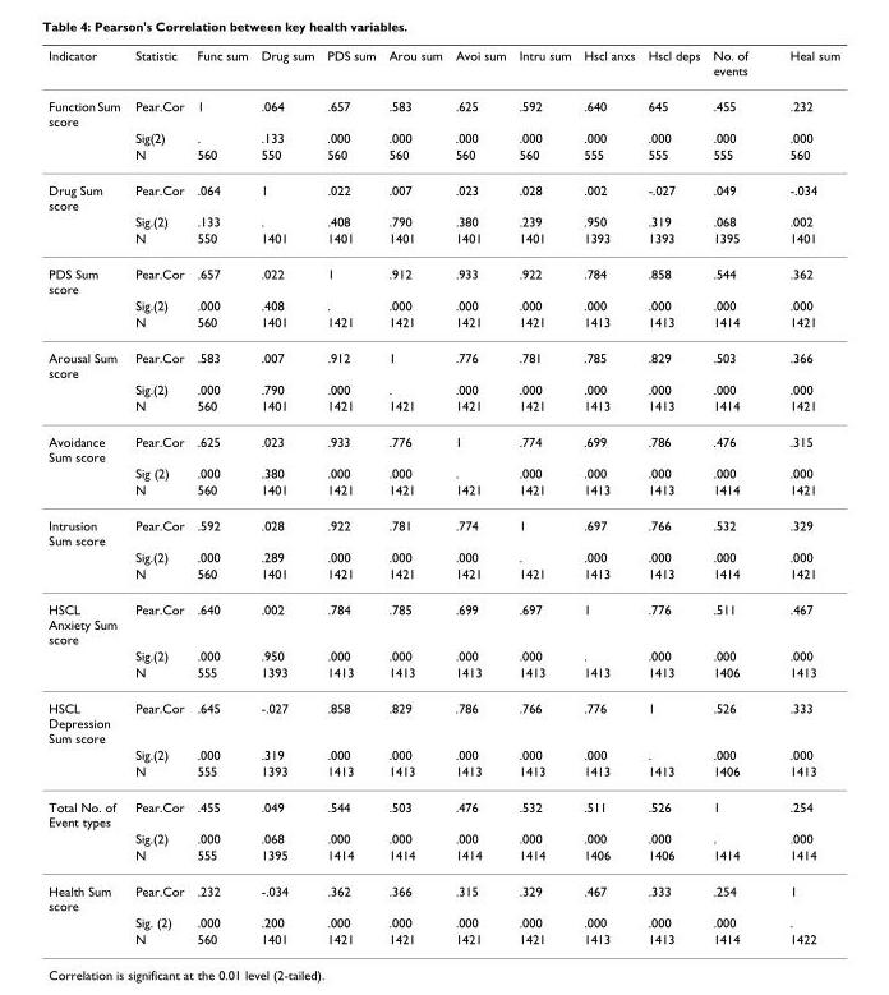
<table><thead><tr><td>Indicator</td><td>Statistic</td><td>Func sum</td><td>Drug sum</td><td>PDS sum</td><td>Arou sum</td><td>Avoi sum</td><td>Intru sum</td><td>Hscl anxs</td><td>Hscl deps</td><td>No. of events</td><td>Heal sum</td></tr></thead><tbody><tr><td rowspan="3">Function Sum score</td><td>Pear.Cor</td><td>1</td><td>.064</td><td>.657</td><td>.583</td><td>.625</td><td>.592</td><td>.640</td><td>645</td><td>.455</td><td>.232</td></tr><tr><td>Sig(2)</td><td>.</td><td>.133</td><td>.000</td><td>.000</td><td>.000</td><td>.000</td><td>.000</td><td>.000</td><td>.000</td><td>.000</td></tr><tr><td>N</td><td>560</td><td>550</td><td>560</td><td>560</td><td>560</td><td>560</td><td>555</td><td>555</td><td>555</td><td>560</td></tr><tr><td rowspan="3">Drug Sum score</td><td>Pear.Cor</td><td>.064</td><td>1</td><td>.022</td><td>.007</td><td>.023</td><td>.028</td><td>.002</td><td>-.027</td><td>.049</td><td>-.034</td></tr><tr><td>Sig.(2)</td><td>.133</td><td>.</td><td>.408</td><td>.790</td><td>.380</td><td>.239</td><td>.950</td><td>.319</td><td>.068</td><td>.002</td></tr><tr><td>N</td><td>550</td><td>1401</td><td>1401</td><td>1401</td><td>1401</td><td>1401</td><td>1393</td><td>1393</td><td>1395</td><td>1401</td></tr><tr><td rowspan="3">PDS Sum score</td><td>Pear.Cor</td><td>.657</td><td>.022</td><td>1</td><td>.912</td><td>.933</td><td>.922</td><td>.784</td><td>.858</td><td>.544</td><td>.362</td></tr><tr><td>Sig.(2)</td><td>.000</td><td>.408</td><td>.</td><td>.000</td><td>.000</td><td>.000</td><td>.000</td><td>.000</td><td>.000</td><td>.000</td></tr><tr><td>N</td><td>560</td><td>1401</td><td>1421</td><td>1421</td><td>1421</td><td>1421</td><td>1413</td><td>1413</td><td>1414</td><td>1421</td></tr><tr><td rowspan="3">Arousal Sum score</td><td>Pear.Cor</td><td>.583</td><td>.007</td><td>.912</td><td>1</td><td>.776</td><td>.781</td><td>.785</td><td>.829</td><td>.503</td><td>.366</td></tr><tr><td>Sig.(2)</td><td>.000</td><td>.790</td><td>.000</td><td>.</td><td>.000</td><td>.000</td><td>.000</td><td>.000</td><td>.000</td><td>.000</td></tr><tr><td>N</td><td>560</td><td>1401</td><td>1421</td><td>1421</td><td>1421</td><td>1421</td><td>1413</td><td>1413</td><td>1414</td><td>1421</td></tr><tr><td rowspan="3">Avoidance Sum score</td><td>Pear.Cor</td><td>.625</td><td>.023</td><td>.933</td><td>.776</td><td>1</td><td>.774</td><td>.699</td><td>.786</td><td>.476</td><td>.315</td></tr><tr><td>Sig (2)</td><td>.000</td><td>.380</td><td>.000</td><td>.000</td><td>.</td><td>.000</td><td>.000</td><td>.000</td><td>.000</td><td>.000</td></tr><tr><td>N</td><td>560</td><td>1401</td><td>1421</td><td>1421</td><td>1421</td><td>1421</td><td>1413</td><td>1413</td><td>1414</td><td>1421</td></tr><tr><td rowspan="3">Intrusion Sum score</td><td>Pear.Cor</td><td>.592</td><td>.028</td><td>.922</td><td>.781</td><td>.774</td><td>1</td><td>.697</td><td>.766</td><td>.532</td><td>.329</td></tr><tr><td>Sig.(2)</td><td>.000</td><td>.289</td><td>.000</td><td>.000</td><td>.000</td><td>.</td><td>.000</td><td>.000</td><td>.000</td><td>.000</td></tr><tr><td>N</td><td>560</td><td>1401</td><td>1421</td><td>1421</td><td>1421</td><td>1421</td><td>1413</td><td>1413</td><td>1414</td><td>1421</td></tr><tr><td rowspan="3">HSCL Anxiety Sum score</td><td>Pear.Cor</td><td>.640</td><td>.002</td><td>.784</td><td>.785</td><td>.699</td><td>.697</td><td>1</td><td>.776</td><td>.511</td><td>.467</td></tr><tr><td>Sig.(2)</td><td>.000</td><td>.950</td><td>.000</td><td>.000</td><td>.000</td><td>.000</td><td>.</td><td>.000</td><td>.000</td><td>.000</td></tr><tr><td>N</td><td>555</td><td>1393</td><td>1413</td><td>1413</td><td>1413</td><td>1413</td><td>1413</td><td>1413</td><td>1406</td><td>1413</td></tr><tr><td rowspan="3">HSCL Depression Sum score</td><td>Pear.Cor</td><td>.645</td><td>-.027</td><td>.858</td><td>.829</td><td>.786</td><td>.766</td><td>.776</td><td>1</td><td>.526</td><td>.333</td></tr><tr><td>Sig.(2)</td><td>.000</td><td>.319</td><td>.000</td><td>.000</td><td>.000</td><td>.000</td><td>.000</td><td>.</td><td>.000</td><td>.000</td></tr><tr><td>N</td><td>555</td><td>1393</td><td>1413</td><td>1413</td><td>1413</td><td>1413</td><td>1413</td><td>1413</td><td>1406</td><td>1413</td></tr><tr><td rowspan="3">Total No. of Event types</td><td>Pear.Cor</td><td>.455</td><td>.049</td><td>.544</td><td>.503</td><td>.476</td><td>.532</td><td>.511</td><td>.526</td><td>1</td><td>.254</td></tr><tr><td>Sig.(2)</td><td>.000</td><td>.068</td><td>.000</td><td>.000</td><td>.000</td><td>.000</td><td>.000</td><td>.000</td><td>.</td><td>.000</td></tr><tr><td>N</td><td>555</td><td>1395</td><td>1414</td><td>1414</td><td>1414</td><td>1414</td><td>1406</td><td>1406</td><td>1414</td><td>1414</td></tr><tr><td rowspan="3">Health Sum score</td><td>Pear.Cor</td><td>.232</td><td>-.034</td><td>.362</td><td>.366</td><td>.315</td><td>.329</td><td>.467</td><td>.333</td><td>.254</td><td>1</td></tr><tr><td>Sig. (2)</td><td>.000</td><td>.200</td><td>.000</td><td>.000</td><td>.000</td><td>.000</td><td>.000</td><td>.000</td><td>.000</td><td>.</td></tr><tr><td>N</td><td>560</td><td>1401</td><td>1421</td><td>1421</td><td>1421</td><td>1421</td><td>1413</td><td>1413</td><td>1414</td><td>1422</td></tr></tbody></table>